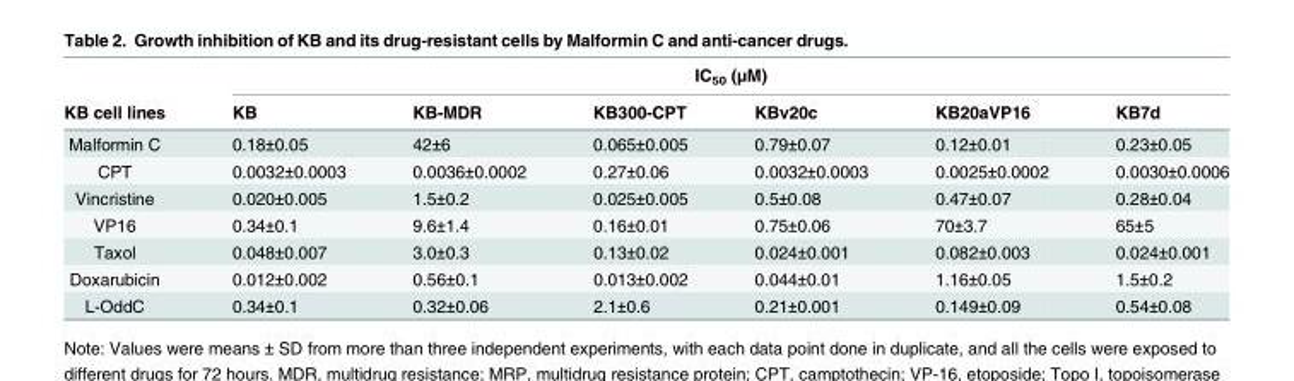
<table><thead><tr><td rowspan="2">KB cell lines</td><td colspan="6">IC<sub>50</sub> (μM)</td></tr><tr><td>KB</td><td>KB-MDR</td><td>KB300-CPT</td><td>KBv20c</td><td>KB20aVP16</td><td>KB7d</td></tr></thead><tbody><tr><td>Malformin C</td><td>0.18±0.05</td><td>42±6</td><td>0.065±0.005</td><td>0.79±0.07</td><td>0.12±0.01</td><td>0.23±0.05</td></tr><tr><td>CPT</td><td>0.0032±0.0003</td><td>0.0036±0.0002</td><td>0.27±0.06</td><td>0.0032±0.0003</td><td>0.0025±0.0002</td><td>0.0030±0.0006</td></tr><tr><td>Vincristine</td><td>0.020±0.005</td><td>1.5±0.2</td><td>0.025±0.005</td><td>0.5±0.08</td><td>0.47±0.07</td><td>0.28±0.04</td></tr><tr><td>VP16</td><td>0.34±0.1</td><td>9.6±1.4</td><td>0.16±0.01</td><td>0.75±0.06</td><td>70±3.7</td><td>65±5</td></tr><tr><td>Taxol</td><td>0.048±0.007</td><td>3.0±0.3</td><td>0.13±0.02</td><td>0.024±0.001</td><td>0.082±0.003</td><td>0.024±0.001</td></tr><tr><td>Doxarubicin</td><td>0.012±0.002</td><td>0.56±0.1</td><td>0.013±0.002</td><td>0.044±0.01</td><td>1.16±0.05</td><td>1.5±0.2</td></tr><tr><td>L-OddC</td><td>0.34±0.1</td><td>0.32±0.06</td><td>2.1±0.6</td><td>0.21±0.001</td><td>0.149±0.09</td><td>0.54±0.08</td></tr></tbody></table>